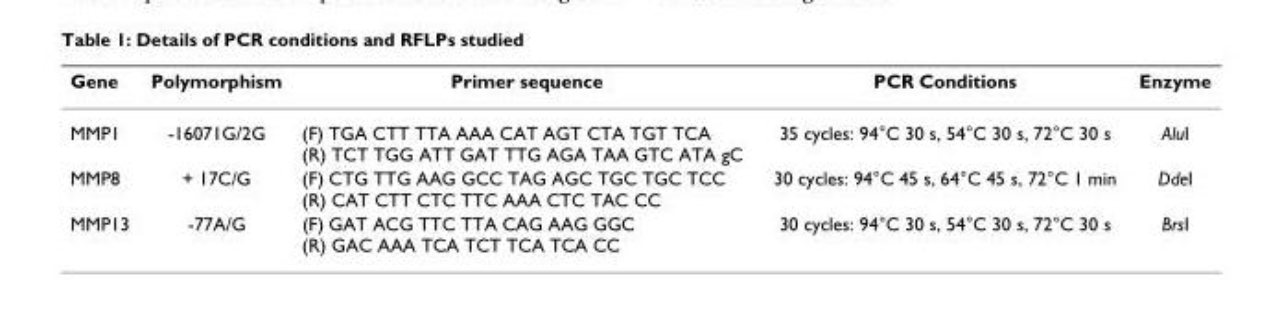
<table><thead><tr><td>Gene</td><td>Polymorphism</td><td>Primer sequence</td><td>PCR Conditions</td><td>Enzyme</td></tr></thead><tbody><tr><td>MMP1</td><td>-16071G/2G</td><td>(F) TGA CTT TTA AAA CAT AGT CTA TGT TCA (R) TCT TGG ATT GAT TTG AGA TAA GTC ATA gC</td><td>35 cycles: 94°C 30 s, 54°C 30 s, 72°C 30 s</td><td>AluI</td></tr><tr><td>MMP8</td><td>+ 17C/G</td><td>(F) CTG TTG AAG GCC TAG AGC TGC TGC TCC (R) CAT CTT CTC TTC AAA CTC TAC CC</td><td>30 cycles: 94°C 45 s, 64°C 45 s, 72°C 1 min</td><td>DdeI</td></tr><tr><td>MMP13</td><td>-77A/G</td><td>(F) GAT ACG TTC TTA CAG AAG GGC (R) GAC AAA TCA TCT TCA TCA CC</td><td>30 cycles: 94°C 30 s, 54°C 30 s, 72°C 30 s</td><td>BrsI</td></tr></tbody></table>